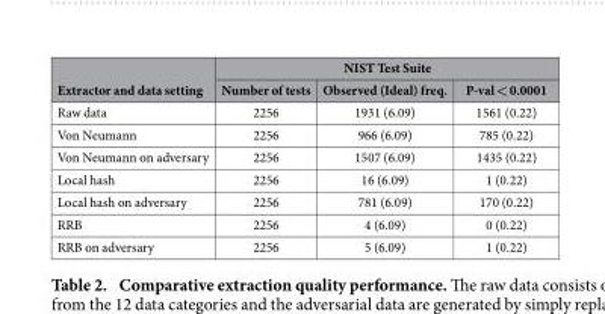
<table><thead><tr><td rowspan="2">Extractor and data setting</td><td colspan="3">NIST Test Suite</td></tr><tr><td>Number of tests</td><td>Observed (Ideal) freq.</td><td>P-val &lt; 0.0001</td></tr></thead><tbody><tr><td>Raw data</td><td>2256</td><td>1931 (6.09)</td><td>1561 (0.22)</td></tr><tr><td>Von Neumann</td><td>2256</td><td>966 (6.09)</td><td>785 (0.22)</td></tr><tr><td>Von Neumann on adversary</td><td>2256</td><td>1507 (6.09)</td><td>1435 (0.22)</td></tr><tr><td>Local hash</td><td>2256</td><td>16 (6.09)</td><td>1 (0.22)</td></tr><tr><td>Local hash on adversary</td><td>2256</td><td>781 (6.09)</td><td>170 (0.22)</td></tr><tr><td>RRB</td><td>2256</td><td>4 (6.09)</td><td>0 (0.22)</td></tr><tr><td>RRB on adversary</td><td>2256</td><td>5 (6.09)</td><td>1 (0.22)</td></tr></tbody></table>